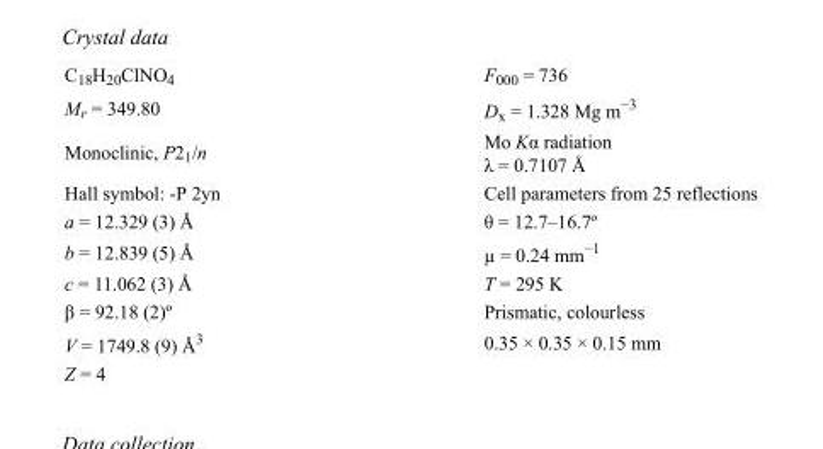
<table><tbody><tr><td>C<sub>18</sub>H<sub>20</sub>ClNO<sub>4</sub></td><td>F<sub>000</sub> = 736</td></tr><tr><td>M<sub>r</sub> = 349.80</td><td>D<sub>x</sub> = 1.328 Mg m<sup>−3</sup></td></tr><tr><td>Monoclinic, P2<sub>1</sub>/n</td><td>Mo Kα radiation λ = 0.7107 Å</td></tr><tr><td>Hall symbol: -P 2yn</td><td>Cell parameters from 25 reflections</td></tr><tr><td>a = 12.329 (3) Å</td><td>θ = 12.7–16.7º</td></tr><tr><td>b = 12.839 (5) Å</td><td>µ = 0.24 mm<sup>−1</sup></td></tr><tr><td>c = 11.062 (3) Å</td><td>T = 295 K</td></tr><tr><td>β = 92.18 (2)º</td><td>Prismatic, colourless</td></tr><tr><td>V = 1749.8 (9) Å<sup>3</sup></td><td>0.35 × 0.35 × 0.15 mm</td></tr><tr><td>Z = 4</td><td></td></tr></tbody></table>